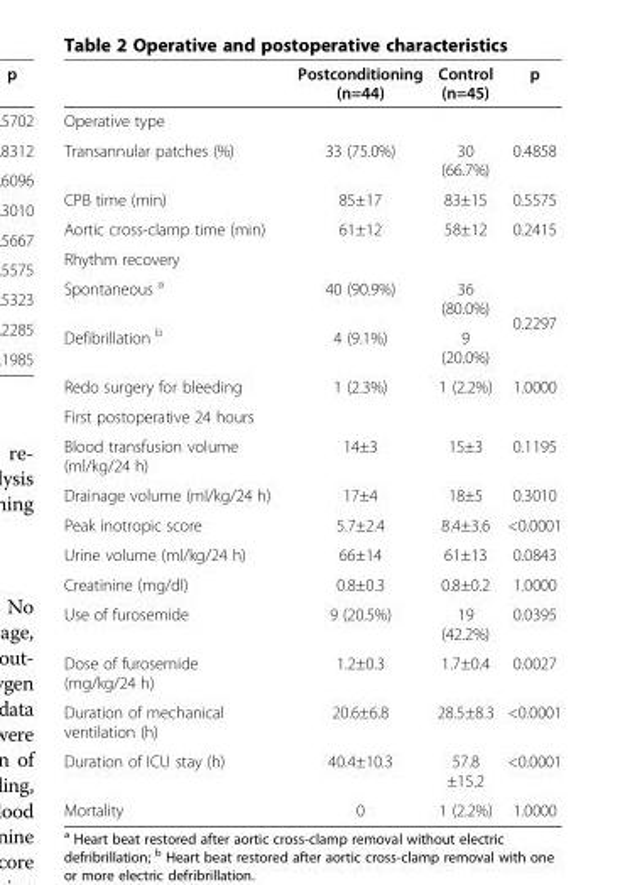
<table><thead><tr><td></td><td>Postconditioning (n=44)</td><td>Control (n=45)</td><td>p</td></tr></thead><tbody><tr><td colspan="4">Operative type</td></tr><tr><td>Transannular patches (%)</td><td>33 (75.0%)</td><td>30 (66.7%)</td><td>0.4858</td></tr><tr><td>CPB time (min)</td><td>85±17</td><td>83±15</td><td>0.5575</td></tr><tr><td>Aortic cross-clamp time (min)</td><td>61±12</td><td>58±12</td><td>0.2415</td></tr><tr><td colspan="4">Rhythm recovery</td></tr><tr><td>Spontaneous <sup>a</sup></td><td>40 (90.9%)</td><td>36 (80.0%)</td><td rowspan="2">0.2297</td></tr><tr><td>Defibrillation <sup>b</sup></td><td>4 (9.1%)</td><td>9 (20.0%)</td></tr><tr><td>Redo surgery for bleeding</td><td>1 (2.3%)</td><td>1 (2.2%)</td><td>1.0000</td></tr><tr><td colspan="4">First postoperative 24 hours</td></tr><tr><td>Blood transfusion volume (ml/kg/24 h)</td><td>14±3</td><td>15±3</td><td>0.1195</td></tr><tr><td>Drainage volume (ml/kg/24 h)</td><td>17±4</td><td>18±5</td><td>0.3010</td></tr><tr><td>Peak inotropic score</td><td>5.7±2.4</td><td>8.4±3.6</td><td>&lt;0.0001</td></tr><tr><td>Urine volume (ml/kg/24 h)</td><td>66±14</td><td>61±13</td><td>0.0843</td></tr><tr><td>Creatinine (mg/dl)</td><td>0.8±0.3</td><td>0.8±0.2</td><td>1.0000</td></tr><tr><td>Use of furosemide</td><td>9 (20.5%)</td><td>19 (42.2%)</td><td>0.0395</td></tr><tr><td>Dose of furosemide (mg/kg/24 h)</td><td>1.2±0.3</td><td>1.7±0.4</td><td>0.0027</td></tr><tr><td>Duration of mechanical ventilation (h)</td><td>20.6±6.8</td><td>28.5±8.3</td><td>&lt;0.0001</td></tr><tr><td>Duration of ICU stay (h)</td><td>40.4±10.3</td><td>57.8 ±15.2</td><td>&lt;0.0001</td></tr><tr><td>Mortality</td><td>0</td><td>1 (2.2%)</td><td>1.0000</td></tr></tbody></table>